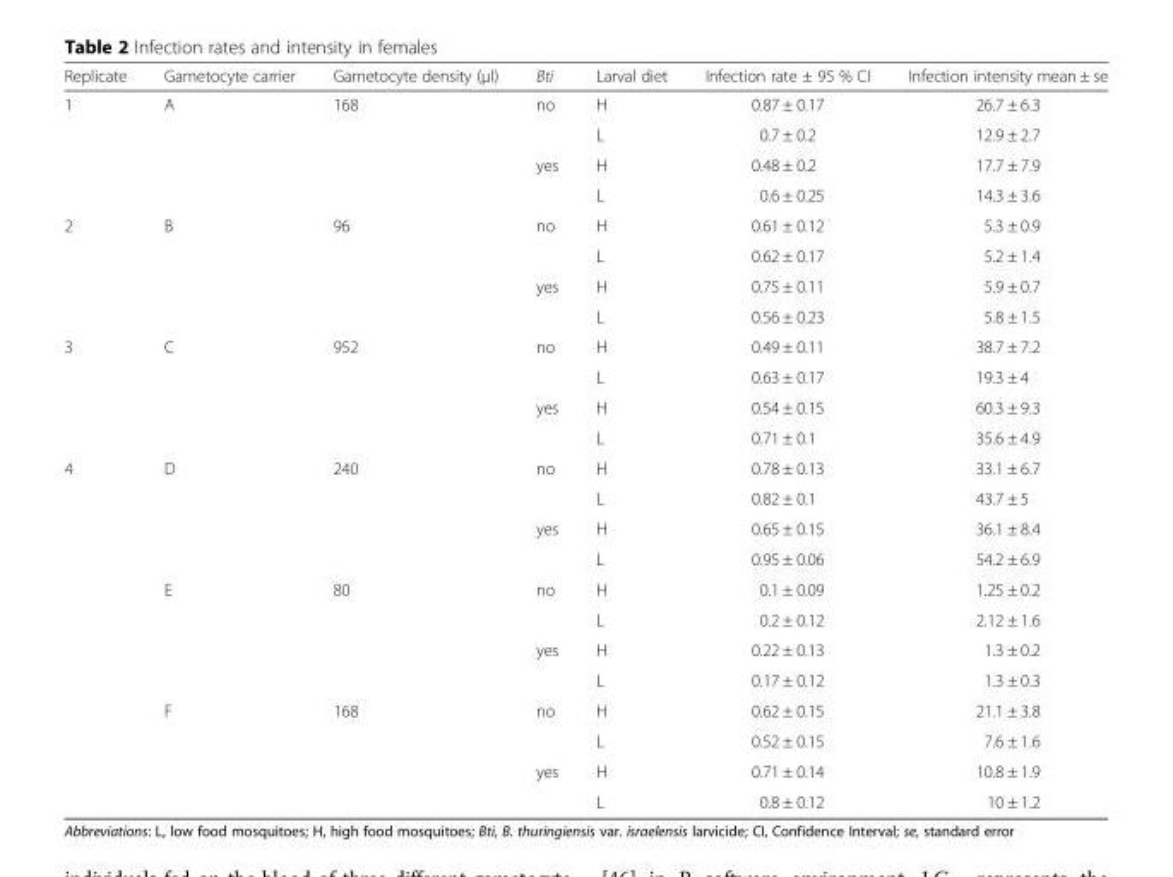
<table><thead><tr><td>Replicate</td><td>Gametocyte carrier</td><td>Gametocyte density (μl)</td><td>Bti</td><td>Larval diet</td><td>Infection rate ± 95 % CI</td><td>Infection intensity mean ± se</td></tr></thead><tbody><tr><td rowspan="4">1</td><td rowspan="4">A</td><td rowspan="4">168</td><td rowspan="2">no</td><td>H</td><td>0.87 ± 0.17</td><td>26.7 ± 6.3</td></tr><tr><td>L</td><td>0.7 ± 0.2</td><td>12.9 ± 2.7</td></tr><tr><td rowspan="2">yes</td><td>H</td><td>0.48 ± 0.2</td><td>17.7 ± 7.9</td></tr><tr><td>L</td><td>0.6 ± 0.25</td><td>14.3 ± 3.6</td></tr><tr><td rowspan="4">2</td><td rowspan="4">B</td><td rowspan="4">96</td><td rowspan="2">no</td><td>H</td><td>0.61 ± 0.12</td><td>5.3 ± 0.9</td></tr><tr><td>L</td><td>0.62 ± 0.17</td><td>5.2 ± 1.4</td></tr><tr><td rowspan="2">yes</td><td>H</td><td>0.75 ± 0.11</td><td>5.9 ± 0.7</td></tr><tr><td>L</td><td>0.56 ± 0.23</td><td>5.8 ± 1.5</td></tr><tr><td rowspan="4">3</td><td rowspan="4">C</td><td rowspan="4">952</td><td rowspan="2">no</td><td>H</td><td>0.49 ± 0.11</td><td>38.7 ± 7.2</td></tr><tr><td>L</td><td>0.63 ± 0.17</td><td>19.3 ± 4</td></tr><tr><td rowspan="2">yes</td><td>H</td><td>0.54 ± 0.15</td><td>60.3 ± 9.3</td></tr><tr><td>L</td><td>0.71 ± 0.1</td><td>35.6 ± 4.9</td></tr><tr><td rowspan="12">4</td><td rowspan="4">D</td><td rowspan="4">240</td><td rowspan="2">no</td><td>H</td><td>0.78 ± 0.13</td><td>33.1 ± 6.7</td></tr><tr><td>L</td><td>0.82 ± 0.1</td><td>43.7 ± 5</td></tr><tr><td rowspan="2">yes</td><td>H</td><td>0.65 ± 0.15</td><td>36.1 ± 8.4</td></tr><tr><td>L</td><td>0.95 ± 0.06</td><td>54.2 ± 6.9</td></tr><tr><td rowspan="4">E</td><td rowspan="4">80</td><td rowspan="2">no</td><td>H</td><td>0.1 ± 0.09</td><td>1.25 ± 0.2</td></tr><tr><td>L</td><td>0.2 ± 0.12</td><td>2.12 ± 1.6</td></tr><tr><td rowspan="2">yes</td><td>H</td><td>0.22 ± 0.13</td><td>1.3 ± 0.2</td></tr><tr><td>L</td><td>0.17 ± 0.12</td><td>1.3 ± 0.3</td></tr><tr><td rowspan="4">F</td><td rowspan="4">168</td><td rowspan="2">no</td><td>H</td><td>0.62 ± 0.15</td><td>21.1 ± 3.8</td></tr><tr><td>L</td><td>0.52 ± 0.15</td><td>7.6 ± 1.6</td></tr><tr><td rowspan="2">yes</td><td>H</td><td>0.71 ± 0.14</td><td>10.8 ± 1.9</td></tr><tr><td>L</td><td>0.8 ± 0.12</td><td>10 ± 1.2</td></tr></tbody></table>